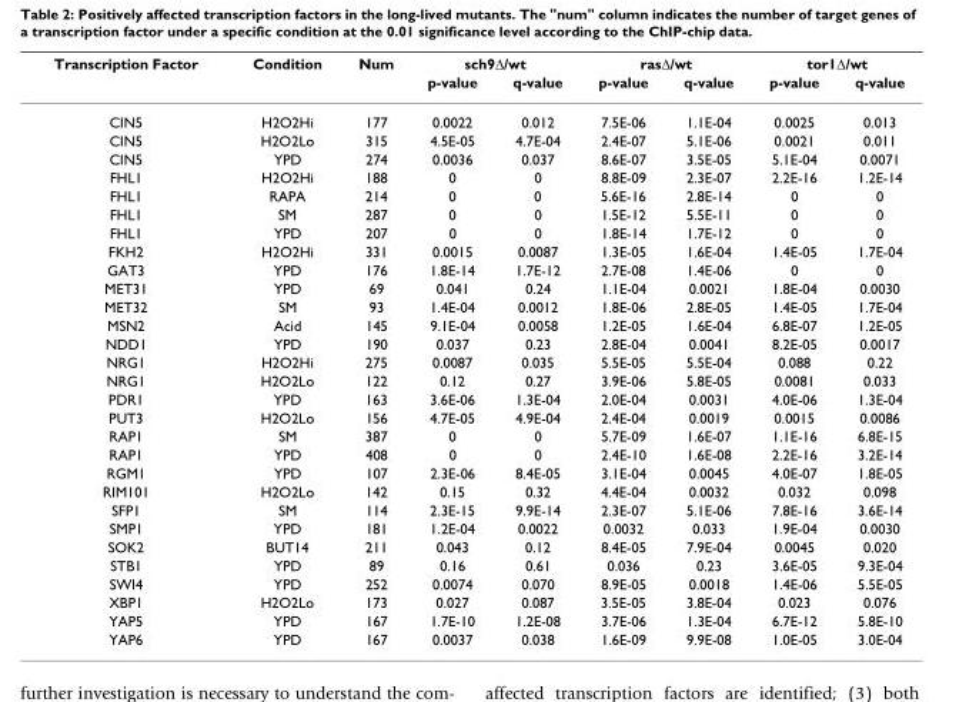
<table><thead><tr><td rowspan="2">Transcription Factor</td><td rowspan="2">Condition</td><td rowspan="2">Num</td><td colspan="2">sch9∆/wt</td><td colspan="2">ras∆/wt</td><td colspan="2">tor1∆/wt</td></tr><tr><td>p-value</td><td>q-value</td><td>p-value</td><td>q-value</td><td>p-value</td><td>q-value</td></tr></thead><tbody><tr><td>CIN5</td><td>H2O2Hi</td><td>177</td><td>0.0022</td><td>0.012</td><td>7.5E-06</td><td>1.1E-04</td><td>0.0025</td><td>0.013</td></tr><tr><td>CIN5</td><td>H2O2Lo</td><td>315</td><td>4.5E-05</td><td>4.7E-04</td><td>2.4E-07</td><td>5.1E-06</td><td>0.0021</td><td>0.011</td></tr><tr><td>CIN5</td><td>YPD</td><td>274</td><td>0.0036</td><td>0.037</td><td>8.6E-07</td><td>3.5E-05</td><td>5.1E-04</td><td>0.0071</td></tr><tr><td>FHL1</td><td>H2O2Hi</td><td>188</td><td>0</td><td>0</td><td>8.8E-09</td><td>2.3E-07</td><td>2.2E-16</td><td>1.2E-14</td></tr><tr><td>FHL1</td><td>RAPA</td><td>214</td><td>0</td><td>0</td><td>5.6E-16</td><td>2.8E-14</td><td>0</td><td>0</td></tr><tr><td>FHL1</td><td>SM</td><td>287</td><td>0</td><td>0</td><td>1.5E-12</td><td>5.5E-11</td><td>0</td><td>0</td></tr><tr><td>FHL1</td><td>YPD</td><td>207</td><td>0</td><td>0</td><td>1.8E-14</td><td>1.7E-12</td><td>0</td><td>0</td></tr><tr><td>FKH2</td><td>H2O2Hi</td><td>331</td><td>0.0015</td><td>0.0087</td><td>1.3E-05</td><td>1.6E-04</td><td>1.4E-05</td><td>1.7E-04</td></tr><tr><td>GAT3</td><td>YPD</td><td>176</td><td>1.8E-14</td><td>1.7E-12</td><td>2.7E-08</td><td>1.4E-06</td><td>0</td><td>0</td></tr><tr><td>MET31</td><td>YPD</td><td>69</td><td>0.041</td><td>0.24</td><td>1.1E-04</td><td>0.0021</td><td>1.8E-04</td><td>0.0030</td></tr><tr><td>MET32</td><td>SM</td><td>93</td><td>1.4E-04</td><td>0.0012</td><td>1.8E-06</td><td>2.8E-05</td><td>1.4E-05</td><td>1.7E-04</td></tr><tr><td>MSN2</td><td>Acid</td><td>145</td><td>9.1E-04</td><td>0.0058</td><td>1.2E-05</td><td>1.6E-04</td><td>6.8E-07</td><td>1.2E-05</td></tr><tr><td>NDD1</td><td>YPD</td><td>190</td><td>0.037</td><td>0.23</td><td>2.8E-04</td><td>0.0041</td><td>8.2E-05</td><td>0.0017</td></tr><tr><td>NRG1</td><td>H2O2Hi</td><td>275</td><td>0.0087</td><td>0.035</td><td>5.5E-05</td><td>5.5E-04</td><td>0.088</td><td>0.22</td></tr><tr><td>NRG1</td><td>H2O2Lo</td><td>122</td><td>0.12</td><td>0.27</td><td>3.9E-06</td><td>5.8E-05</td><td>0.0081</td><td>0.033</td></tr><tr><td>PDR1</td><td>YPD</td><td>163</td><td>3.6E-06</td><td>1.3E-04</td><td>2.0E-04</td><td>0.0031</td><td>4.0E-06</td><td>1.3E-04</td></tr><tr><td>PUT3</td><td>H2O2Lo</td><td>156</td><td>4.7E-05</td><td>4.9E-04</td><td>2.4E-04</td><td>0.0019</td><td>0.0015</td><td>0.0086</td></tr><tr><td>RAP1</td><td>SM</td><td>387</td><td>0</td><td>0</td><td>5.7E-09</td><td>1.6E-07</td><td>1.1E-16</td><td>6.8E-15</td></tr><tr><td>RAP1</td><td>YPD</td><td>408</td><td>0</td><td>0</td><td>2.4E-10</td><td>1.6E-08</td><td>2.2E-16</td><td>3.2E-14</td></tr><tr><td>RGM1</td><td>YPD</td><td>107</td><td>2.3E-06</td><td>8.4E-05</td><td>3.1E-04</td><td>0.0045</td><td>4.0E-07</td><td>1.8E-05</td></tr><tr><td>RIM101</td><td>H2O2Lo</td><td>142</td><td>0.15</td><td>0.32</td><td>4.4E-04</td><td>0.0032</td><td>0.032</td><td>0.098</td></tr><tr><td>SFP1</td><td>SM</td><td>114</td><td>2.3E-15</td><td>9.9E-14</td><td>2.3E-07</td><td>5.1E-06</td><td>7.8E-16</td><td>3.6E-14</td></tr><tr><td>SMP1</td><td>YPD</td><td>181</td><td>1.2E-04</td><td>0.0022</td><td>0.0032</td><td>0.033</td><td>1.9E-04</td><td>0.0030</td></tr><tr><td>SOK2</td><td>BUT14</td><td>211</td><td>0.043</td><td>0.12</td><td>8.4E-05</td><td>7.9E-04</td><td>0.0045</td><td>0.020</td></tr><tr><td>STB1</td><td>YPD</td><td>89</td><td>0.16</td><td>0.61</td><td>0.036</td><td>0.23</td><td>3.6E-05</td><td>9.3E-04</td></tr><tr><td>SWI4</td><td>YPD</td><td>252</td><td>0.0074</td><td>0.070</td><td>8.9E-05</td><td>0.0018</td><td>1.4E-06</td><td>5.5E-05</td></tr><tr><td>XBP1</td><td>H2O2Lo</td><td>173</td><td>0.027</td><td>0.087</td><td>3.5E-05</td><td>3.8E-04</td><td>0.023</td><td>0.076</td></tr><tr><td>YAP5</td><td>YPD</td><td>167</td><td>1.7E-10</td><td>1.2E-08</td><td>3.7E-06</td><td>1.3E-04</td><td>6.7E-12</td><td>5.8E-10</td></tr><tr><td>YAP6</td><td>YPD</td><td>167</td><td>0.0037</td><td>0.038</td><td>1.6E-09</td><td>9.9E-08</td><td>1.0E-05</td><td>3.0E-04</td></tr></tbody></table>